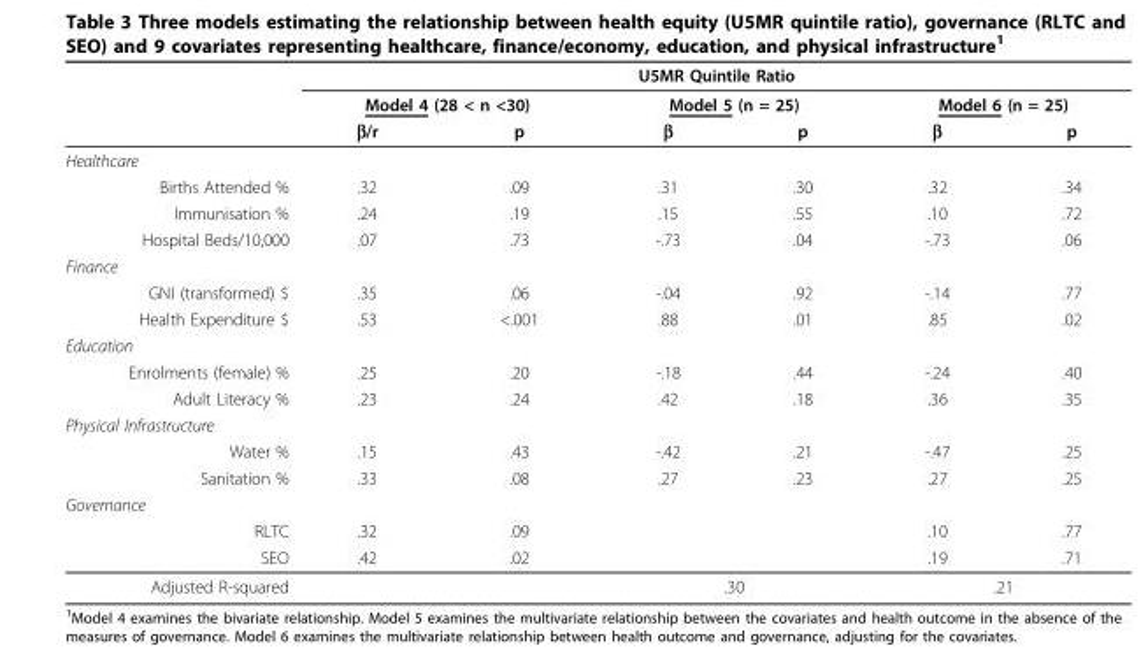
<table><thead><tr><td rowspan="3"></td><td colspan="6">U5MR Quintile Ratio</td></tr><tr><td colspan="2">Model 4 (28 &lt; n &lt;30)</td><td colspan="2">Model 5 (n = 25)</td><td colspan="2">Model 6 (n = 25)</td></tr><tr><td>β/r</td><td>p</td><td>β</td><td>p</td><td>β</td><td>p</td></tr></thead><tbody><tr><td colspan="7">Healthcare</td></tr><tr><td>Births Attended %</td><td>.32</td><td>.09</td><td>.31</td><td>.30</td><td>.32</td><td>.34</td></tr><tr><td>Immunisation %</td><td>.24</td><td>.19</td><td>.15</td><td>.55</td><td>.10</td><td>.72</td></tr><tr><td>Hospital Beds/10,000</td><td>.07</td><td>.73</td><td>-.73</td><td>.04</td><td>-.73</td><td>.06</td></tr><tr><td colspan="7">Finance</td></tr><tr><td>GNI (transformed) $</td><td>.35</td><td>.06</td><td>-.04</td><td>.92</td><td>-.14</td><td>.77</td></tr><tr><td>Health Expenditure $</td><td>.53</td><td>&lt;.001</td><td>.88</td><td>.01</td><td>.85</td><td>.02</td></tr><tr><td colspan="7">Education</td></tr><tr><td>Enrolments (female) %</td><td>.25</td><td>.20</td><td>-.18</td><td>.44</td><td>-.24</td><td>.40</td></tr><tr><td>Adult Literacy %</td><td>.23</td><td>.24</td><td>.42</td><td>.18</td><td>.36</td><td>.35</td></tr><tr><td colspan="7">Physical Infrastructure</td></tr><tr><td>Water %</td><td>.15</td><td>.43</td><td>-.42</td><td>.21</td><td>-.47</td><td>.25</td></tr><tr><td>Sanitation %</td><td>.33</td><td>.08</td><td>.27</td><td>.23</td><td>.27</td><td>.25</td></tr><tr><td colspan="7">Governance</td></tr><tr><td>RLTC</td><td>.32</td><td>.09</td><td></td><td></td><td>.10</td><td>.77</td></tr><tr><td>SEO</td><td>.42</td><td>.02</td><td></td><td></td><td>.19</td><td>.71</td></tr><tr><td>Adjusted R-squared</td><td></td><td></td><td colspan="2">.30</td><td colspan="2">.21</td></tr></tbody></table>